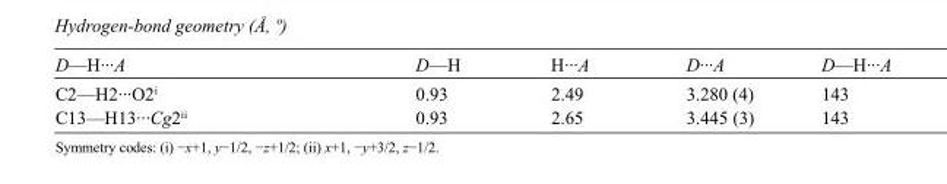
<table><tbody><tr><td>D—H···A</td><td>D—H</td><td>H···A</td><td>D···A</td><td>D—H···A</td></tr><tr><td>C2—H2···O2<sup>i</sup></td><td>0.93</td><td>2.49</td><td>3.280 (4)</td><td>143</td></tr><tr><td>C13—H13···Cg2<sup>ii</sup></td><td>0.93</td><td>2.65</td><td>3.445 (3)</td><td>143</td></tr></tbody></table>